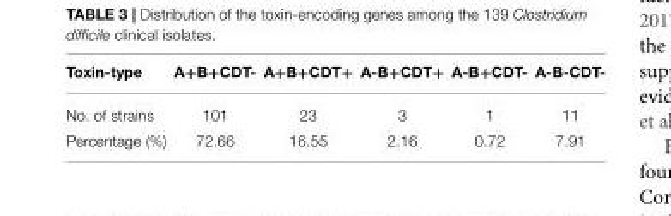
<table><thead><tr><td>Toxin-type</td><td>A+B+CDT-</td><td>A+B+CDT+</td><td>A-B+CDT+</td><td>A-B+CDT-</td><td>A-B-CDT-</td></tr></thead><tbody><tr><td>No. of strains</td><td>101</td><td>23</td><td>3</td><td>1</td><td>11</td></tr><tr><td>Percentage (%)</td><td>72.66</td><td>16.55</td><td>2.16</td><td>0.72</td><td>7.91</td></tr></tbody></table>